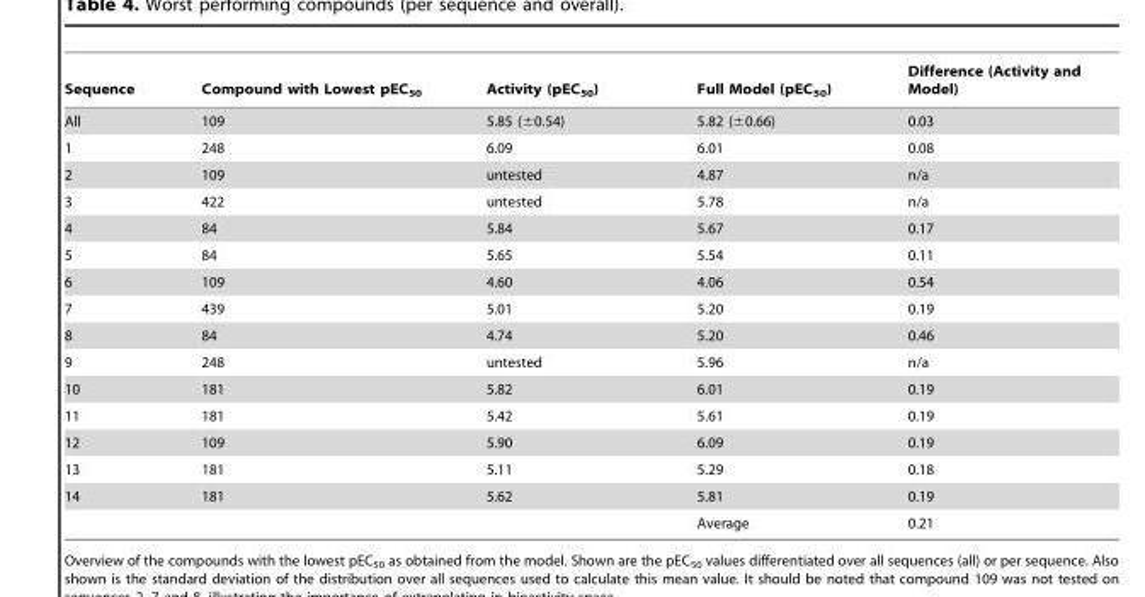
<table><thead><tr><td>Sequence</td><td>Compound with Lowest pEC<sub>50</sub></td><td>Activity (pEC<sub>50</sub>)</td><td>Full Model (pEC<sub>50</sub>)</td><td>Difference (Activity and Model)</td></tr></thead><tbody><tr><td>All</td><td>109</td><td>5.85 (±0.54)</td><td>5.82 (±0.66)</td><td>0.03</td></tr><tr><td>1</td><td>248</td><td>6.09</td><td>6.01</td><td>0.08</td></tr><tr><td>2</td><td>109</td><td>untested</td><td>4.87</td><td>n/a</td></tr><tr><td>3</td><td>422</td><td>untested</td><td>5.78</td><td>n/a</td></tr><tr><td>4</td><td>84</td><td>5.84</td><td>5.67</td><td>0.17</td></tr><tr><td>5</td><td>84</td><td>5.65</td><td>5.54</td><td>0.11</td></tr><tr><td>6</td><td>109</td><td>4.60</td><td>4.06</td><td>0.54</td></tr><tr><td>7</td><td>439</td><td>5.01</td><td>5.20</td><td>0.19</td></tr><tr><td>8</td><td>84</td><td>4.74</td><td>5.20</td><td>0.46</td></tr><tr><td>9</td><td>248</td><td>untested</td><td>5.96</td><td>n/a</td></tr><tr><td>10</td><td>181</td><td>5.82</td><td>6.01</td><td>0.19</td></tr><tr><td>11</td><td>181</td><td>5.42</td><td>5.61</td><td>0.19</td></tr><tr><td>12</td><td>109</td><td>5.90</td><td>6.09</td><td>0.19</td></tr><tr><td>13</td><td>181</td><td>5.11</td><td>5.29</td><td>0.18</td></tr><tr><td rowspan="2">14</td><td>181</td><td>5.62</td><td>5.81</td><td>0.19</td></tr><tr><td></td><td></td><td>Average</td><td>0.21</td></tr></tbody></table>